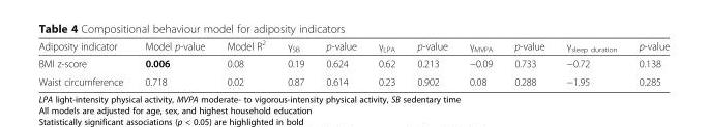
<table><thead><tr><td>Adiposity indicator</td><td>Model p-value</td><td>Model R<sup>2</sup></td><td>γ<sub>SB</sub></td><td>p-value</td><td>γ<sub>LPA</sub></td><td>p-value</td><td>γ<sub>MVPA</sub></td><td>p-value</td><td>γ<sub>sleep duration</sub></td><td>p-value</td></tr></thead><tbody><tr><td>BMI z-score</td><td>0.006</td><td>0.08</td><td>0.19</td><td>0.624</td><td>0.62</td><td>0.213</td><td>−0.09</td><td>0.733</td><td>−0.72</td><td>0.138</td></tr><tr><td>Waist circumference</td><td>0.718</td><td>0.02</td><td>0.87</td><td>0.614</td><td>0.23</td><td>0.902</td><td>0.08</td><td>0.288</td><td>−1.95</td><td>0.285</td></tr></tbody></table>